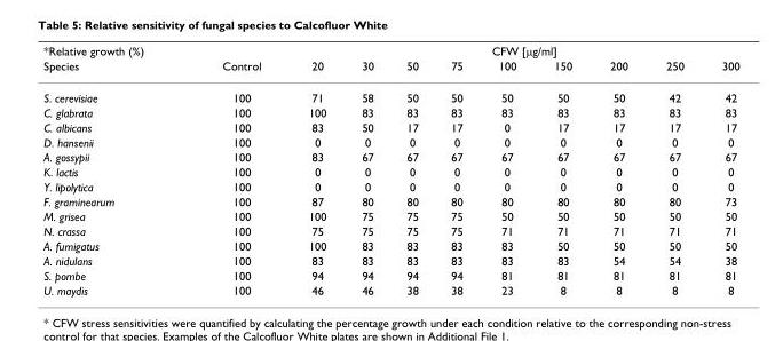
<table><thead><tr><td colspan="2">*Relative growth (%)</td><td colspan="9">CFW [μg/ml]</td></tr><tr><td>Species</td><td>Control</td><td>20</td><td>30</td><td>50</td><td>75</td><td>100</td><td>150</td><td>200</td><td>250</td><td>300</td></tr></thead><tbody><tr><td>S. cerevisiae</td><td>100</td><td>71</td><td>58</td><td>50</td><td>50</td><td>50</td><td>50</td><td>50</td><td>42</td><td>42</td></tr><tr><td>C. glabrata</td><td>100</td><td>100</td><td>83</td><td>83</td><td>83</td><td>83</td><td>83</td><td>83</td><td>83</td><td>83</td></tr><tr><td>C. albicans</td><td>100</td><td>83</td><td>50</td><td>17</td><td>17</td><td>0</td><td>17</td><td>17</td><td>17</td><td>17</td></tr><tr><td>D. hansenii</td><td>100</td><td>0</td><td>0</td><td>0</td><td>0</td><td>0</td><td>0</td><td>0</td><td>0</td><td>0</td></tr><tr><td>A. gossypii</td><td>100</td><td>83</td><td>67</td><td>67</td><td>67</td><td>67</td><td>67</td><td>67</td><td>67</td><td>67</td></tr><tr><td>K. lactis</td><td>100</td><td>0</td><td>0</td><td>0</td><td>0</td><td>0</td><td>0</td><td>0</td><td>0</td><td>0</td></tr><tr><td>Y. lipolytica</td><td>100</td><td>0</td><td>0</td><td>0</td><td>0</td><td>0</td><td>0</td><td>0</td><td>0</td><td>0</td></tr><tr><td>F. graminearum</td><td>100</td><td>87</td><td>80</td><td>80</td><td>80</td><td>80</td><td>80</td><td>80</td><td>80</td><td>73</td></tr><tr><td>M. grisea</td><td>100</td><td>100</td><td>75</td><td>75</td><td>75</td><td>50</td><td>50</td><td>50</td><td>50</td><td>50</td></tr><tr><td>N. crassa</td><td>100</td><td>75</td><td>75</td><td>75</td><td>75</td><td>71</td><td>71</td><td>71</td><td>71</td><td>71</td></tr><tr><td>A. fumigatus</td><td>100</td><td>100</td><td>83</td><td>83</td><td>83</td><td>83</td><td>50</td><td>50</td><td>50</td><td>50</td></tr><tr><td>A. nidulans</td><td>100</td><td>83</td><td>83</td><td>83</td><td>83</td><td>83</td><td>83</td><td>54</td><td>54</td><td>38</td></tr><tr><td>S. pombe</td><td>100</td><td>94</td><td>94</td><td>94</td><td>94</td><td>81</td><td>81</td><td>81</td><td>81</td><td>81</td></tr><tr><td>U. maydis</td><td>100</td><td>46</td><td>46</td><td>38</td><td>38</td><td>23</td><td>8</td><td>8</td><td>8</td><td>8</td></tr></tbody></table>